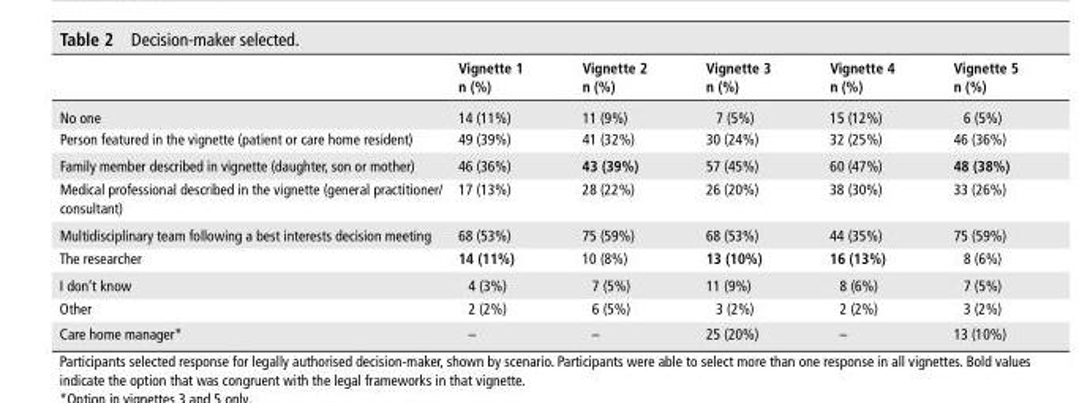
<table><thead><tr><td></td><td>Vignette 1 n (%)</td><td>Vignette 2 n (%)</td><td>Vignette 3 n (%)</td><td>Vignette 4 n (%)</td><td>Vignette 5 n (%)</td></tr></thead><tbody><tr><td>No one</td><td>14 (11%)</td><td>11 (9%)</td><td>7 (5%)</td><td>15 (12%)</td><td>6 (5%)</td></tr><tr><td>Person featured in the vignette (patient or care home resident)</td><td>49 (39%)</td><td>41 (32%)</td><td>30 (24%)</td><td>32 (25%)</td><td>46 (36%)</td></tr><tr><td>Family member described in vignette (daughter, son or mother)</td><td>46 (36%)</td><td>43 (39%)</td><td>57 (45%)</td><td>60 (47%)</td><td>48 (38%)</td></tr><tr><td>Medical professional described in the vignette (general practitioner/ consultant)</td><td>17 (13%)</td><td>28 (22%)</td><td>26 (20%)</td><td>38 (30%)</td><td>33 (26%)</td></tr><tr><td>Multidisciplinary team following a best interests decision meeting</td><td>68 (53%)</td><td>75 (59%)</td><td>68 (53%)</td><td>44 (35%)</td><td>75 (59%)</td></tr><tr><td>The researcher</td><td>14 (11%)</td><td>10 (8%)</td><td>13 (10%)</td><td>16 (13%)</td><td>8 (6%)</td></tr><tr><td>I don’t know</td><td>4 (3%)</td><td>7 (5%)</td><td>11 (9%)</td><td>8 (6%)</td><td>7 (5%)</td></tr><tr><td>Other</td><td>2 (2%)</td><td>6 (5%)</td><td>3 (2%)</td><td>2 (2%)</td><td>3 (2%)</td></tr><tr><td>Care home manager*</td><td>–</td><td>–</td><td>25 (20%)</td><td>–</td><td>13 (10%)</td></tr></tbody></table>